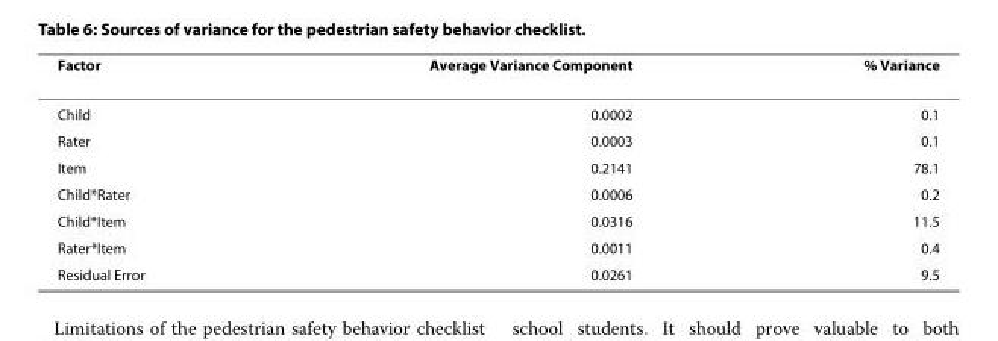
<table><thead><tr><td>Factor</td><td>Average Variance Component</td><td>% Variance</td></tr></thead><tbody><tr><td>Child</td><td>0.0002</td><td>0.1</td></tr><tr><td>Rater</td><td>0.0003</td><td>0.1</td></tr><tr><td>Item</td><td>0.2141</td><td>78.1</td></tr><tr><td>Child*Rater</td><td>0.0006</td><td>0.2</td></tr><tr><td>Child*Item</td><td>0.0316</td><td>11.5</td></tr><tr><td>Rater*Item</td><td>0.0011</td><td>0.4</td></tr><tr><td>Residual Error</td><td>0.0261</td><td>9.5</td></tr></tbody></table>